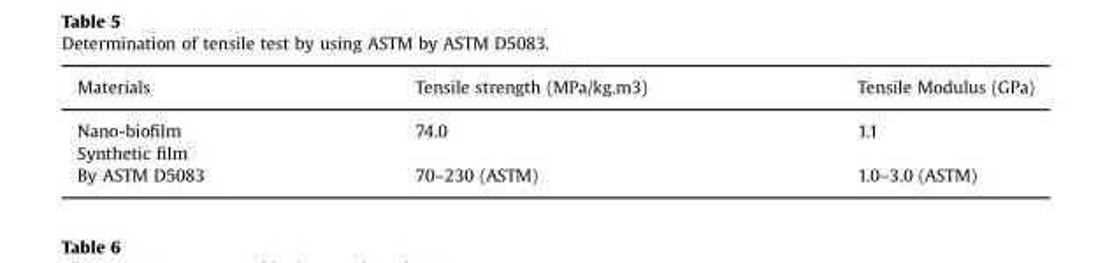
<table><thead><tr><td>Materials</td><td>Tensile strength (MPa/kg.m3)</td><td>Tensile Modulus (GPa)</td></tr></thead><tbody><tr><td>Nano-biofilm</td><td>74.0</td><td>1.1</td></tr><tr><td colspan="3">Synthetic film</td></tr><tr><td>By ASTM D5083</td><td>70–230 (ASTM)</td><td>1.0–3.0 (ASTM)</td></tr></tbody></table>